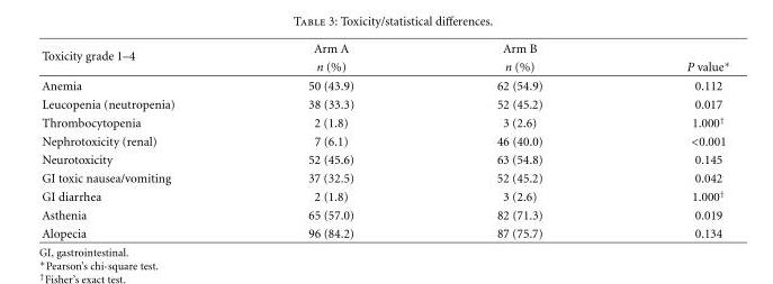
<table><thead><tr><td rowspan="2">Toxicity grade 1–4</td><td rowspan="2">Arm A n (%)</td><td rowspan="2">Arm B n (%)</td><td rowspan="2">P value∗</td></tr><tr></tr></thead><tbody><tr><td>Anemia</td><td>50 (43.9)</td><td>62 (54.9)</td><td>0.112</td></tr><tr><td>Leucopenia (neutropenia)</td><td>38 (33.3)</td><td>52 (45.2)</td><td>0.017</td></tr><tr><td>Thrombocytopenia</td><td>2 (1.8)</td><td>3 (2.6)</td><td>1.000<sup>†</sup></td></tr><tr><td>Nephrotoxicity (renal)</td><td>7 (6.1)</td><td>46 (40.0)</td><td>&lt;0.001</td></tr><tr><td>Neurotoxicity</td><td>52 (45.6)</td><td>63 (54.8)</td><td>0.145</td></tr><tr><td>GI toxic nausea/vomiting</td><td>37 (32.5)</td><td>52 (45.2)</td><td>0.042</td></tr><tr><td>GI diarrhea</td><td>2 (1.8)</td><td>3 (2.6)</td><td>1.000<sup>†</sup></td></tr><tr><td>Asthenia</td><td>65 (57.0)</td><td>82 (71.3)</td><td>0.019</td></tr><tr><td>Alopecia</td><td>96 (84.2)</td><td>87 (75.7)</td><td>0.134</td></tr></tbody></table>